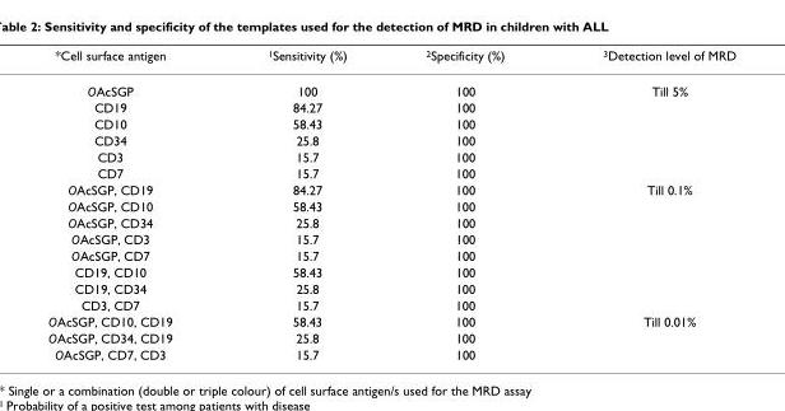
<table><thead><tr><td>*Cell surface antigen</td><td>1Sensitivity (%)</td><td>2Specificity (%)</td><td>3Detection level of MRD</td></tr></thead><tbody><tr><td>OAcSGP</td><td>100</td><td>100</td><td>Till 5%</td></tr><tr><td>CD19</td><td>84.27</td><td>100</td><td></td></tr><tr><td>CD10</td><td>58.43</td><td>100</td><td></td></tr><tr><td>CD34</td><td>25.8</td><td>100</td><td></td></tr><tr><td>CD3</td><td>15.7</td><td>100</td><td></td></tr><tr><td>CD7</td><td>15.7</td><td>100</td><td></td></tr><tr><td>OAcSGP, CD19</td><td>84.27</td><td>100</td><td>Till 0.1%</td></tr><tr><td>OAcSGP, CD10</td><td>58.43</td><td>100</td><td></td></tr><tr><td>OAcSGP, CD34</td><td>25.8</td><td>100</td><td></td></tr><tr><td>OAcSGP, CD3</td><td>15.7</td><td>100</td><td></td></tr><tr><td>OAcSGP, CD7</td><td>15.7</td><td>100</td><td></td></tr><tr><td>CD19, CD10</td><td>58.43</td><td>100</td><td></td></tr><tr><td>CD19, CD34</td><td>25.8</td><td>100</td><td></td></tr><tr><td>CD3, CD7</td><td>15.7</td><td>100</td><td></td></tr><tr><td>OAcSGP, CD10, CD19</td><td>58.43</td><td>100</td><td>Till 0.01%</td></tr><tr><td>OAcSGP, CD34, CD19</td><td>25.8</td><td>100</td><td></td></tr><tr><td>OAcSGP, CD7, CD3</td><td>15.7</td><td>100</td><td></td></tr></tbody></table>